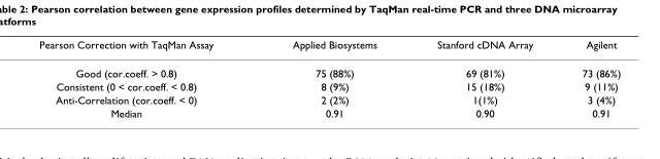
<table><thead><tr><td>Pearson Correction with TaqMan Assay</td><td>Applied Biosystems</td><td>Stanford cDNA Array</td><td>Agilent</td></tr></thead><tbody><tr><td>Good (cor.coeff. &gt; 0.8)</td><td>75 (88%)</td><td>69 (81%)</td><td>73 (86%)</td></tr><tr><td>Consistent (0 &lt; cor.coeff. &lt; 0.8)</td><td>8 (9%)</td><td>15 (18%)</td><td>9 (11%)</td></tr><tr><td>Anti-Correlation (cor.coeff. &lt; 0)</td><td>2 (2%)</td><td>1(1%)</td><td>3 (4%)</td></tr><tr><td>Median</td><td>0.91</td><td>0.90</td><td>0.91</td></tr></tbody></table>